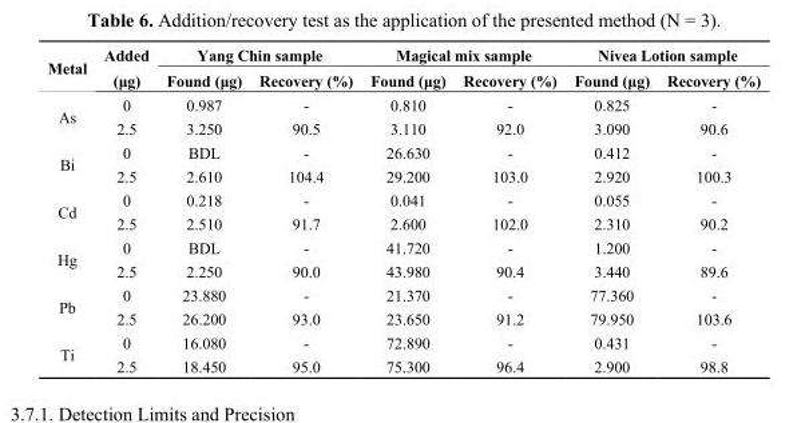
<table><thead><tr><td rowspan="2">Metal</td><td rowspan="2">Added (μg)</td><td colspan="2">Yang Chin sample</td><td colspan="2">Magical mix sample</td><td colspan="2">Nivea Lotion sample</td></tr><tr><td>Found (μg)</td><td>Recovery (%)</td><td>Found (μg)</td><td>Recovery (%)</td><td>Found (μg)</td><td>Recovery (%)</td></tr></thead><tbody><tr><td rowspan="2">As</td><td>0</td><td>0.987</td><td>-</td><td>0.810</td><td>-</td><td>0.825</td><td>-</td></tr><tr><td>2.5</td><td>3.250</td><td>90.5</td><td>3.110</td><td>92.0</td><td>3.090</td><td>90.6</td></tr><tr><td rowspan="2">Bi</td><td>0</td><td>BDL</td><td>-</td><td>26.630</td><td>-</td><td>0.412</td><td>-</td></tr><tr><td>2.5</td><td>2.610</td><td>104.4</td><td>29.200</td><td>103.0</td><td>2.920</td><td>100.3</td></tr><tr><td rowspan="2">Cd</td><td>0</td><td>0.218</td><td>-</td><td>0.041</td><td>-</td><td>0.055</td><td>-</td></tr><tr><td>2.5</td><td>2.510</td><td>91.7</td><td>2.600</td><td>102.0</td><td>2.310</td><td>90.2</td></tr><tr><td rowspan="2">Hg</td><td>0</td><td>BDL</td><td>-</td><td>41.720</td><td>-</td><td>1.200</td><td>-</td></tr><tr><td>2.5</td><td>2.250</td><td>90.0</td><td>43.980</td><td>90.4</td><td>3.440</td><td>89.6</td></tr><tr><td rowspan="2">Pb</td><td>0</td><td>23.880</td><td>-</td><td>21.370</td><td>-</td><td>77.360</td><td>-</td></tr><tr><td>2.5</td><td>26.200</td><td>93.0</td><td>23.650</td><td>91.2</td><td>79.950</td><td>103.6</td></tr><tr><td rowspan="2">Ti</td><td>0</td><td>16.080</td><td>-</td><td>72.890</td><td>-</td><td>0.431</td><td>-</td></tr><tr><td>2.5</td><td>18.450</td><td>95.0</td><td>75.300</td><td>96.4</td><td>2.900</td><td>98.8</td></tr></tbody></table>